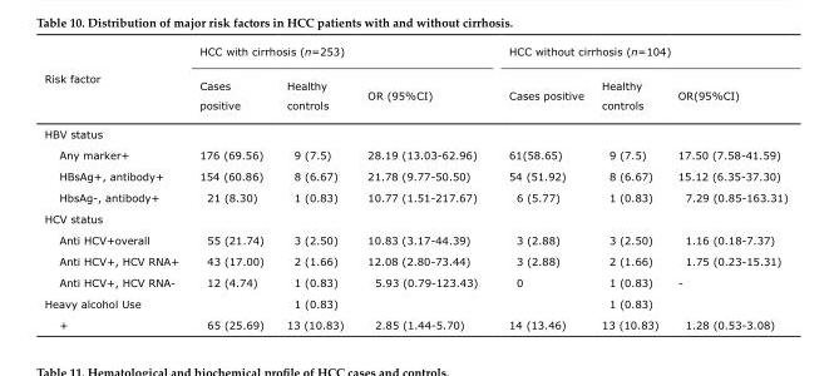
<table><thead><tr><td rowspan="2">Risk factor</td><td colspan="3">HCC with cirrhosis (n=253)</td><td colspan="3">HCC without cirrhosis (n=104)</td></tr><tr><td>Cases positive</td><td>Healthy controls</td><td>OR (95%CI)</td><td>Cases positive</td><td>Healthy controls</td><td>OR(95%CI)</td></tr></thead><tbody><tr><td colspan="7">HBV status</td></tr><tr><td>Any marker+</td><td>176 (69.56)</td><td>9 (7.5)</td><td>28.19 (13.03-62.96)</td><td>61(58.65)</td><td>9 (7.5)</td><td>17.50 (7.58-41.59)</td></tr><tr><td>HBsAg+, antibody+</td><td>154 (60.86)</td><td>8 (6.67)</td><td>21.78 (9.77-50.50)</td><td>54 (51.92)</td><td>8 (6.67)</td><td>15.12 (6.35-37.30)</td></tr><tr><td>HbsAg-, antibody+</td><td>21 (8.30)</td><td>1 (0.83)</td><td>10.77 (1.51-217.67)</td><td>6 (5.77)</td><td>1 (0.83)</td><td>7.29 (0.85-163.31)</td></tr><tr><td colspan="7">HCV status</td></tr><tr><td>Anti HCV+overall</td><td>55 (21.74)</td><td>3 (2.50)</td><td>10.83 (3.17-44.39)</td><td>3 (2.88)</td><td>3 (2.50)</td><td>1.16 (0.18-7.37)</td></tr><tr><td>Anti HCV+, HCV RNA+</td><td>43 (17.00)</td><td>2 (1.66)</td><td>12.08 (2.80-73.44)</td><td>3 (2.88)</td><td>2 (1.66)</td><td>1.75 (0.23-15.31)</td></tr><tr><td>Anti HCV+, HCV RNA-</td><td>12 (4.74)</td><td>1 (0.83)</td><td>5.93 (0.79-123.43)</td><td>0</td><td>1 (0.83)</td><td>-</td></tr><tr><td>Heavy alcohol Use</td><td></td><td>1 (0.83)</td><td></td><td></td><td>1 (0.83)</td><td></td></tr><tr><td>+</td><td>65 (25.69)</td><td>13 (10.83)</td><td>2.85 (1.44-5.70)</td><td>14 (13.46)</td><td>13 (10.83)</td><td>1.28 (0.53-3.08)</td></tr></tbody></table>